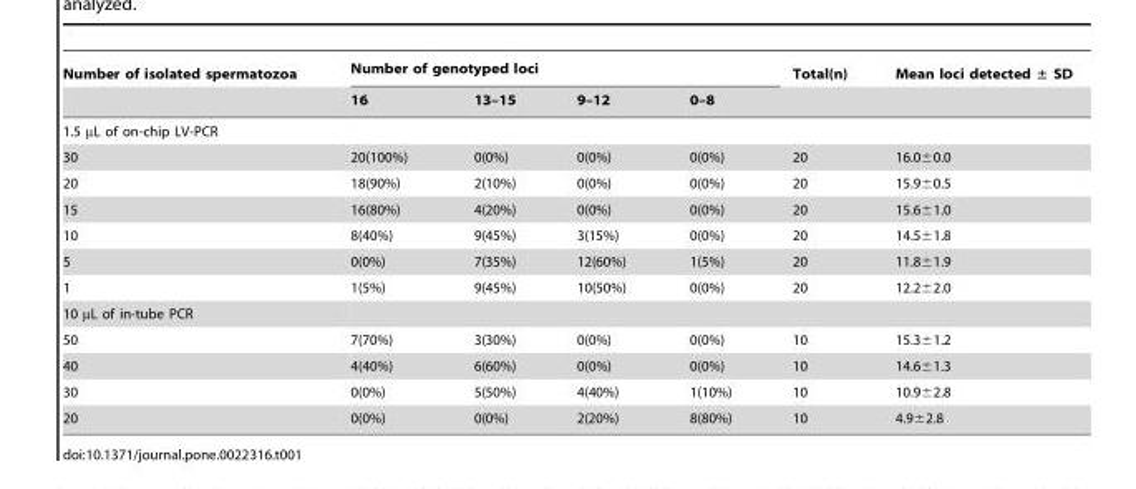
<table><thead><tr><td rowspan="2">Number of isolated spermatozoa</td><td colspan="4">Number of genotyped loci</td><td rowspan="2">Total(n)</td><td rowspan="2">Mean loci detected ± SD</td></tr><tr><td>16</td><td>13–15</td><td>9–12</td><td>0–8</td></tr></thead><tbody><tr><td colspan="7">1.5 µL of on-chip LV-PCR</td></tr><tr><td>30</td><td>20(100%)</td><td>0(0%)</td><td>0(0%)</td><td>0(0%)</td><td>20</td><td>16.0±0.0</td></tr><tr><td>20</td><td>18(90%)</td><td>2(10%)</td><td>0(0%)</td><td>0(0%)</td><td>20</td><td>15.9±0.5</td></tr><tr><td>15</td><td>16(80%)</td><td>4(20%)</td><td>0(0%)</td><td>0(0%)</td><td>20</td><td>15.6±1.0</td></tr><tr><td>10</td><td>8(40%)</td><td>9(45%)</td><td>3(15%)</td><td>0(0%)</td><td>20</td><td>14.5±1.8</td></tr><tr><td>5</td><td>0(0%)</td><td>7(35%)</td><td>12(60%)</td><td>1(5%)</td><td>20</td><td>11.8±1.9</td></tr><tr><td>1</td><td>1(5%)</td><td>9(45%)</td><td>10(50%)</td><td>0(0%)</td><td>20</td><td>12.2±2.0</td></tr><tr><td colspan="7">10 µL of in-tube PCR</td></tr><tr><td>50</td><td>7(70%)</td><td>3(30%)</td><td>0(0%)</td><td>0(0%)</td><td>10</td><td>15.3±1.2</td></tr><tr><td>40</td><td>4(40%)</td><td>6(60%)</td><td>0(0%)</td><td>0(0%)</td><td>10</td><td>14.6±1.3</td></tr><tr><td>30</td><td>0(0%)</td><td>5(50%)</td><td>4(40%)</td><td>1(10%)</td><td>10</td><td>10.9±2.8</td></tr><tr><td>20</td><td>0(0%)</td><td>0(0%)</td><td>2(20%)</td><td>8(80%)</td><td>10</td><td>4.9±2.8</td></tr></tbody></table>